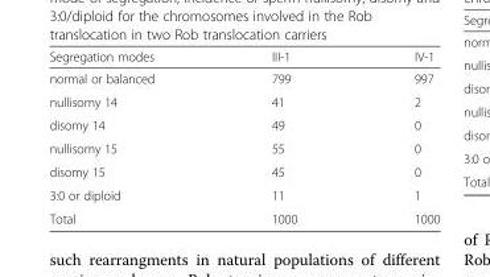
<table><thead><tr><td>Segregation modes</td><td>III-1</td><td>IV-1</td></tr></thead><tbody><tr><td>normal or balanced</td><td>799</td><td>997</td></tr><tr><td>nullisomy 14</td><td>41</td><td>2</td></tr><tr><td>disomy 14</td><td>49</td><td>0</td></tr><tr><td>nullisomy 15</td><td>55</td><td>0</td></tr><tr><td>disomy 15</td><td>45</td><td>0</td></tr><tr><td>3:0 or diploid</td><td>11</td><td>1</td></tr><tr><td>Total</td><td>1000</td><td>1000</td></tr></tbody></table>